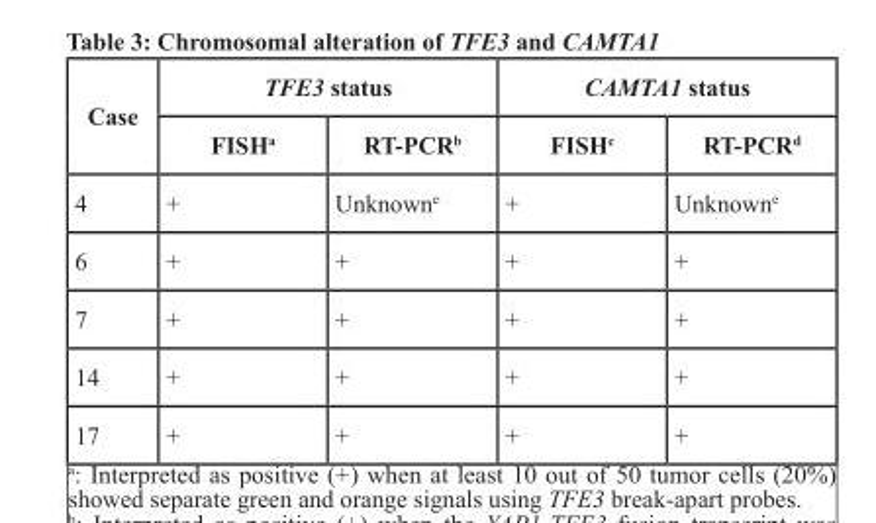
<table><thead><tr><td rowspan="2">Case</td><td colspan="2">TFE3 status</td><td colspan="2">CAMTA1 status</td></tr><tr><td>FISH<sup>a</sup></td><td>RT-PCR<sup>b</sup></td><td>FISH<sup>c</sup></td><td>RT-PCR<sup>d</sup></td></tr></thead><tbody><tr><td>4</td><td>+</td><td>Unknown<sup>e</sup></td><td>+</td><td>Unknown<sup>e</sup></td></tr><tr><td>6</td><td>+</td><td>+</td><td>+</td><td>+</td></tr><tr><td>7</td><td>+</td><td>+</td><td>+</td><td>+</td></tr><tr><td>14</td><td>+</td><td>+</td><td>+</td><td>+</td></tr><tr><td>17</td><td>+</td><td>+</td><td>+</td><td>+</td></tr></tbody></table>